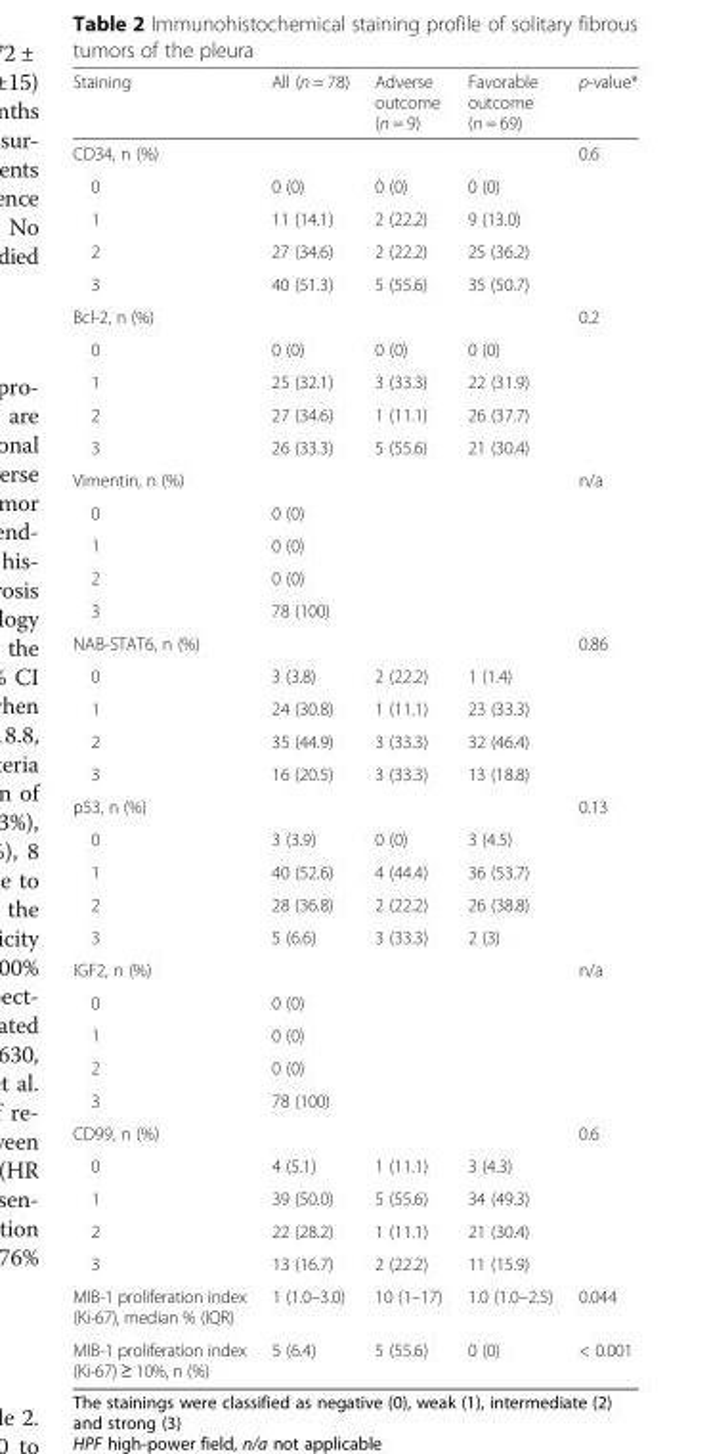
<table><thead><tr><td>Staining</td><td>All (n = 78)</td><td>Adverse outcome (n = 9)</td><td>Favorable outcome (n = 69)</td><td>p-value*</td></tr></thead><tbody><tr><td colspan="4">CD34, n (%)</td><td rowspan="5">0.6</td></tr><tr><td>0</td><td>0 (0)</td><td>0 (0)</td><td>0 (0)</td></tr><tr><td>1</td><td>11 (14.1)</td><td>2 (22.2)</td><td>9 (13.0)</td></tr><tr><td>2</td><td>27 (34.6)</td><td>2 (22.2)</td><td>25 (36.2)</td></tr><tr><td>3</td><td>40 (51.3)</td><td>5 (55.6)</td><td>35 (50.7)</td></tr><tr><td colspan="4">Bcl-2, n (%)</td><td rowspan="5">0.2</td></tr><tr><td>0</td><td>0 (0)</td><td>0 (0)</td><td>0 (0)</td></tr><tr><td>1</td><td>25 (32.1)</td><td>3 (33.3)</td><td>22 (31.9)</td></tr><tr><td>2</td><td>27 (34.6)</td><td>1 (11.1)</td><td>26 (37.7)</td></tr><tr><td>3</td><td>26 (33.3)</td><td>5 (55.6)</td><td>21 (30.4)</td></tr><tr><td colspan="4">Vimentin, n (%)</td><td rowspan="5">n/a</td></tr><tr><td>0</td><td>0 (0)</td><td></td><td></td></tr><tr><td>1</td><td>0 (0)</td><td></td><td></td></tr><tr><td>2</td><td>0 (0)</td><td></td><td></td></tr><tr><td>3</td><td>78 (100)</td><td></td><td></td></tr><tr><td colspan="4">NAB-STAT6, n (%)</td><td rowspan="5">0.86</td></tr><tr><td>0</td><td>3 (3.8)</td><td>2 (22.2)</td><td>1 (1.4)</td></tr><tr><td>1</td><td>24 (30.8)</td><td>1 (11.1)</td><td>23 (33.3)</td></tr><tr><td>2</td><td>35 (44.9)</td><td>3 (33.3)</td><td>32 (46.4)</td></tr><tr><td>3</td><td>16 (20.5)</td><td>3 (33.3)</td><td>13 (18.8)</td></tr><tr><td colspan="4">p53, n (%)</td><td rowspan="5">0.13</td></tr><tr><td>0</td><td>3 (3.9)</td><td>0 (0)</td><td>3 (4.5)</td></tr><tr><td>1</td><td>40 (52.6)</td><td>4 (44.4)</td><td>36 (53.7)</td></tr><tr><td>2</td><td>28 (36.8)</td><td>2 (22.2)</td><td>26 (38.8)</td></tr><tr><td>3</td><td>5 (6.6)</td><td>3 (33.3)</td><td>2 (3)</td></tr><tr><td colspan="4">IGF2, n (%)</td><td rowspan="5">n/a</td></tr><tr><td>0</td><td>0 (0)</td><td></td><td></td></tr><tr><td>1</td><td>0 (0)</td><td></td><td></td></tr><tr><td>2</td><td>0 (0)</td><td></td><td></td></tr><tr><td>3</td><td>78 (100)</td><td></td><td></td></tr><tr><td colspan="4">CD99, n (%)</td><td rowspan="5">0.6</td></tr><tr><td>0</td><td>4 (5.1)</td><td>1 (11.1)</td><td>3 (4.3)</td></tr><tr><td>1</td><td>39 (50.0)</td><td>5 (55.6)</td><td>34 (49.3)</td></tr><tr><td>2</td><td>22 (28.2)</td><td>1 (11.1)</td><td>21 (30.4)</td></tr><tr><td>3</td><td>13 (16.7)</td><td>2 (22.2)</td><td>11 (15.9)</td></tr><tr><td>MIB-1 proliferation index (Ki-67), median % (IQR)</td><td>1 (1.0–3.0)</td><td>10 (1–17)</td><td>1.0 (1.0–2.5)</td><td>0.044</td></tr><tr><td>MIB-1 proliferation index (Ki-67) ≥ 10%, n (%)</td><td>5 (6.4)</td><td>5 (55.6)</td><td>0 (0)</td><td>&lt; 0.001</td></tr></tbody></table>